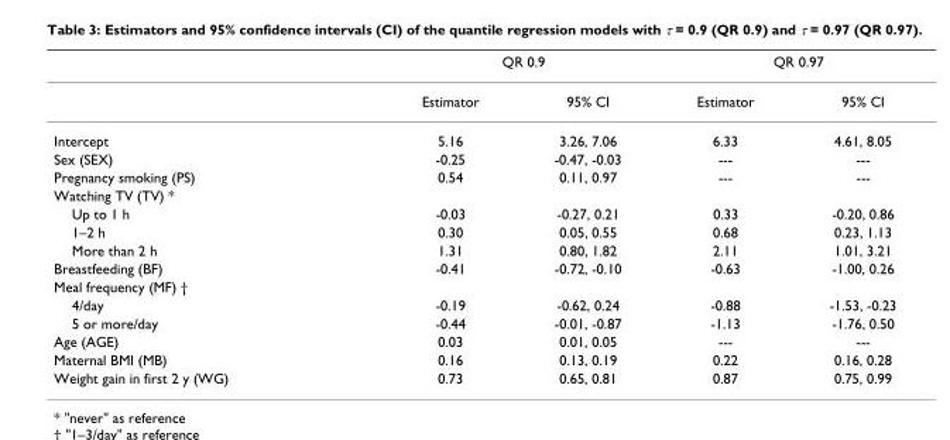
<table><thead><tr><td rowspan="2"></td><td colspan="2">QR 0.9</td><td colspan="2">QR 0.97</td></tr><tr><td>Estimator</td><td>95% CI</td><td>Estimator</td><td>95% CI</td></tr></thead><tbody><tr><td>Intercept</td><td>5.16</td><td>3.26, 7.06</td><td>6.33</td><td>4.61, 8.05</td></tr><tr><td>Sex (SEX)</td><td>-0.25</td><td>-0.47, -0.03</td><td>---</td><td>---</td></tr><tr><td>Pregnancy smoking (PS)</td><td>0.54</td><td>0.11, 0.97</td><td>---</td><td>---</td></tr><tr><td colspan="5">Watching TV (TV) *</td></tr><tr><td>Up to 1 h</td><td>-0.03</td><td>-0.27, 0.21</td><td>0.33</td><td>-0.20, 0.86</td></tr><tr><td>1–2 h</td><td>0.30</td><td>0.05, 0.55</td><td>0.68</td><td>0.23, 1.13</td></tr><tr><td>More than 2 h</td><td>1.31</td><td>0.80, 1.82</td><td>2.11</td><td>1.01, 3.21</td></tr><tr><td>Breastfeeding (BF)</td><td>-0.41</td><td>-0.72, -0.10</td><td>-0.63</td><td>-1.00, 0.26</td></tr><tr><td colspan="5">Meal frequency (MF) †</td></tr><tr><td>4/day</td><td>-0.19</td><td>-0.62, 0.24</td><td>-0.88</td><td>-1.53, -0.23</td></tr><tr><td>5 or more/day</td><td>-0.44</td><td>-0.01, -0.87</td><td>-1.13</td><td>-1.76, 0.50</td></tr><tr><td>Age (AGE)</td><td>0.03</td><td>0.01, 0.05</td><td>---</td><td>---</td></tr><tr><td>Maternal BMI (MB)</td><td>0.16</td><td>0.13, 0.19</td><td>0.22</td><td>0.16, 0.28</td></tr><tr><td>Weight gain in first 2 y (WG)</td><td>0.73</td><td>0.65, 0.81</td><td>0.87</td><td>0.75, 0.99</td></tr></tbody></table>